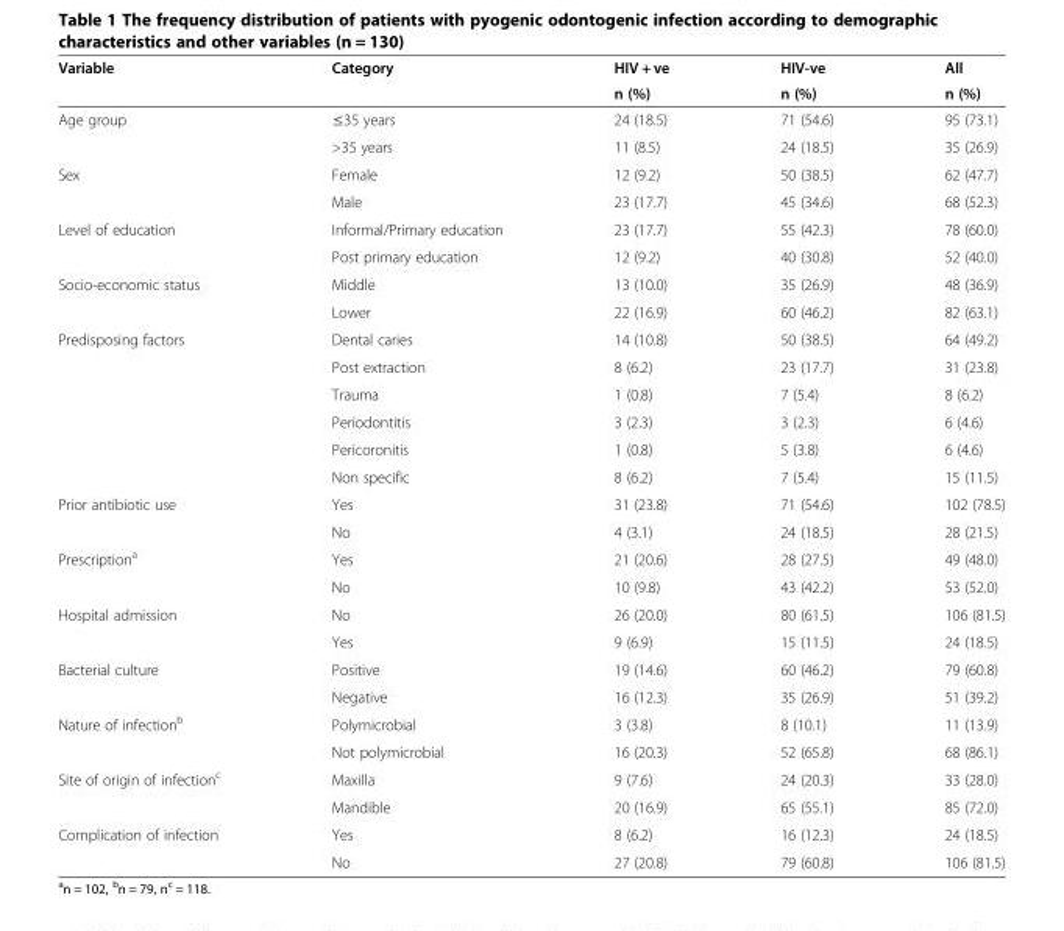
<table><thead><tr><td rowspan="2">Variable</td><td rowspan="2">Category</td><td rowspan="2">HIV + ve n (%)</td><td rowspan="2">HIV-ve n (%)</td><td rowspan="2">All n (%)</td></tr><tr></tr></thead><tbody><tr><td rowspan="2">Age group</td><td>≤35 years</td><td>24 (18.5)</td><td>71 (54.6)</td><td>95 (73.1)</td></tr><tr><td>&gt;35 years</td><td>11 (8.5)</td><td>24 (18.5)</td><td>35 (26.9)</td></tr><tr><td rowspan="2">Sex</td><td>Female</td><td>12 (9.2)</td><td>50 (38.5)</td><td>62 (47.7)</td></tr><tr><td>Male</td><td>23 (17.7)</td><td>45 (34.6)</td><td>68 (52.3)</td></tr><tr><td rowspan="2">Level of education</td><td>Informal/Primary education</td><td>23 (17.7)</td><td>55 (42.3)</td><td>78 (60.0)</td></tr><tr><td>Post primary education</td><td>12 (9.2)</td><td>40 (30.8)</td><td>52 (40.0)</td></tr><tr><td rowspan="2">Socio-economic status</td><td>Middle</td><td>13 (10.0)</td><td>35 (26.9)</td><td>48 (36.9)</td></tr><tr><td>Lower</td><td>22 (16.9)</td><td>60 (46.2)</td><td>82 (63.1)</td></tr><tr><td rowspan="6">Predisposing factors</td><td>Dental caries</td><td>14 (10.8)</td><td>50 (38.5)</td><td>64 (49.2)</td></tr><tr><td>Post extraction</td><td>8 (6.2)</td><td>23 (17.7)</td><td>31 (23.8)</td></tr><tr><td>Trauma</td><td>1 (0.8)</td><td>7 (5.4)</td><td>8 (6.2)</td></tr><tr><td>Periodontitis</td><td>3 (2.3)</td><td>3 (2.3)</td><td>6 (4.6)</td></tr><tr><td>Pericoronitis</td><td>1 (0.8)</td><td>5 (3.8)</td><td>6 (4.6)</td></tr><tr><td>Non specific</td><td>8 (6.2)</td><td>7 (5.4)</td><td>15 (11.5)</td></tr><tr><td rowspan="2">Prior antibiotic use</td><td>Yes</td><td>31 (23.8)</td><td>71 (54.6)</td><td>102 (78.5)</td></tr><tr><td>No</td><td>4 (3.1)</td><td>24 (18.5)</td><td>28 (21.5)</td></tr><tr><td rowspan="2">Prescription<sup>a</sup></td><td>Yes</td><td>21 (20.6)</td><td>28 (27.5)</td><td>49 (48.0)</td></tr><tr><td>No</td><td>10 (9.8)</td><td>43 (42.2)</td><td>53 (52.0)</td></tr><tr><td rowspan="2">Hospital admission</td><td>No</td><td>26 (20.0)</td><td>80 (61.5)</td><td>106 (81.5)</td></tr><tr><td>Yes</td><td>9 (6.9)</td><td>15 (11.5)</td><td>24 (18.5)</td></tr><tr><td rowspan="2">Bacterial culture</td><td>Positive</td><td>19 (14.6)</td><td>60 (46.2)</td><td>79 (60.8)</td></tr><tr><td>Negative</td><td>16 (12.3)</td><td>35 (26.9)</td><td>51 (39.2)</td></tr><tr><td rowspan="2">Nature of infection<sup>b</sup></td><td>Polymicrobial</td><td>3 (3.8)</td><td>8 (10.1)</td><td>11 (13.9)</td></tr><tr><td>Not polymicrobial</td><td>16 (20.3)</td><td>52 (65.8)</td><td>68 (86.1)</td></tr><tr><td rowspan="2">Site of origin of infection<sup>c</sup></td><td>Maxilla</td><td>9 (7.6)</td><td>24 (20.3)</td><td>33 (28.0)</td></tr><tr><td>Mandible</td><td>20 (16.9)</td><td>65 (55.1)</td><td>85 (72.0)</td></tr><tr><td rowspan="2">Complication of infection</td><td>Yes</td><td>8 (6.2)</td><td>16 (12.3)</td><td>24 (18.5)</td></tr><tr><td>No</td><td>27 (20.8)</td><td>79 (60.8)</td><td>106 (81.5)</td></tr></tbody></table>